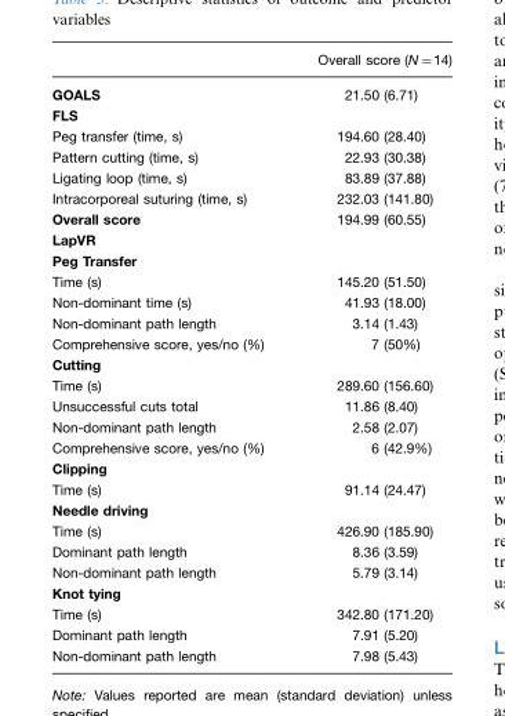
<table><thead><tr><td></td><td>Overall score (N=14)</td></tr></thead><tbody><tr><td>GOALS</td><td>21.50 (6.71)</td></tr><tr><td colspan="2">FLS</td></tr><tr><td>Peg transfer (time, s)</td><td>194.60 (28.40)</td></tr><tr><td>Pattern cutting (time, s)</td><td>22.93 (30.38)</td></tr><tr><td>Ligating loop (time, s)</td><td>83.89 (37.88)</td></tr><tr><td>Intracorporeal suturing (time, s)</td><td>232.03 (141.80)</td></tr><tr><td>Overall score</td><td>194.99 (60.55)</td></tr><tr><td colspan="2">LapVR</td></tr><tr><td colspan="2">Peg Transfer</td></tr><tr><td>Time (s)</td><td>145.20 (51.50)</td></tr><tr><td>Non-dominant time (s)</td><td>41.93 (18.00)</td></tr><tr><td>Non-dominant path length</td><td>3.14 (1.43)</td></tr><tr><td>Comprehensive score, yes/no (%)</td><td>7 (50%)</td></tr><tr><td colspan="2">Cutting</td></tr><tr><td>Time (s)</td><td>289.60 (156.60)</td></tr><tr><td>Unsuccessful cuts total</td><td>11.86 (8.40)</td></tr><tr><td>Non-dominant path length</td><td>2.58 (2.07)</td></tr><tr><td>Comprehensive score, yes/no (%)</td><td>6 (42.9%)</td></tr><tr><td colspan="2">Clipping</td></tr><tr><td>Time (s)</td><td>91.14 (24.47)</td></tr><tr><td colspan="2">Needle driving</td></tr><tr><td>Time (s)</td><td>426.90 (185.90)</td></tr><tr><td>Dominant path length</td><td>8.36 (3.59)</td></tr><tr><td>Non-dominant path length</td><td>5.79 (3.14)</td></tr><tr><td colspan="2">Knot tying</td></tr><tr><td>Time (s)</td><td>342.80 (171.20)</td></tr><tr><td>Dominant path length</td><td>7.91 (5.20)</td></tr><tr><td>Non-dominant path length</td><td>7.98 (5.43)</td></tr></tbody></table>